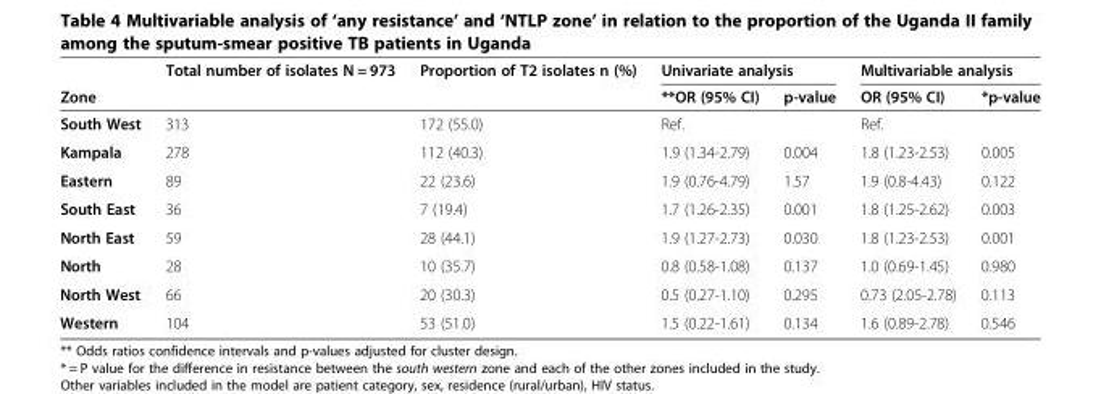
<table><thead><tr><td rowspan="2">Zone</td><td rowspan="2">Total number of isolates N = 973</td><td rowspan="2">Proportion of T2 isolates n (%)</td><td colspan="2">Univariate analysis</td><td colspan="2">Multivariable analysis</td></tr><tr><td>**OR (95% CI)</td><td>p-value</td><td>OR (95% CI)</td><td>*p-value</td></tr></thead><tbody><tr><td>South West</td><td>313</td><td>172 (55.0)</td><td>Ref.</td><td></td><td>Ref.</td><td></td></tr><tr><td>Kampala</td><td>278</td><td>112 (40.3)</td><td>1.9 (1.34-2.79)</td><td>0.004</td><td>1.8 (1.23-2.53)</td><td>0.005</td></tr><tr><td>Eastern</td><td>89</td><td>22 (23.6)</td><td>1.9 (0.76-4.79)</td><td>1.57</td><td>1.9 (0.8-4.43)</td><td>0.122</td></tr><tr><td>South East</td><td>36</td><td>7 (19.4)</td><td>1.7 (1.26-2.35)</td><td>0.001</td><td>1.8 (1.25-2.62)</td><td>0.003</td></tr><tr><td>North East</td><td>59</td><td>28 (44.1)</td><td>1.9 (1.27-2.73)</td><td>0.030</td><td>1.8 (1.23-2.53)</td><td>0.001</td></tr><tr><td>North</td><td>28</td><td>10 (35.7)</td><td>0.8 (0.58-1.08)</td><td>0.137</td><td>1.0 (0.69-1.45)</td><td>0.980</td></tr><tr><td>North West</td><td>66</td><td>20 (30.3)</td><td>0.5 (0.27-1.10)</td><td>0.295</td><td>0.73 (2.05-2.78)</td><td>0.113</td></tr><tr><td>Western</td><td>104</td><td>53 (51.0)</td><td>1.5 (0.22-1.61)</td><td>0.134</td><td>1.6 (0.89-2.78)</td><td>0.546</td></tr></tbody></table>